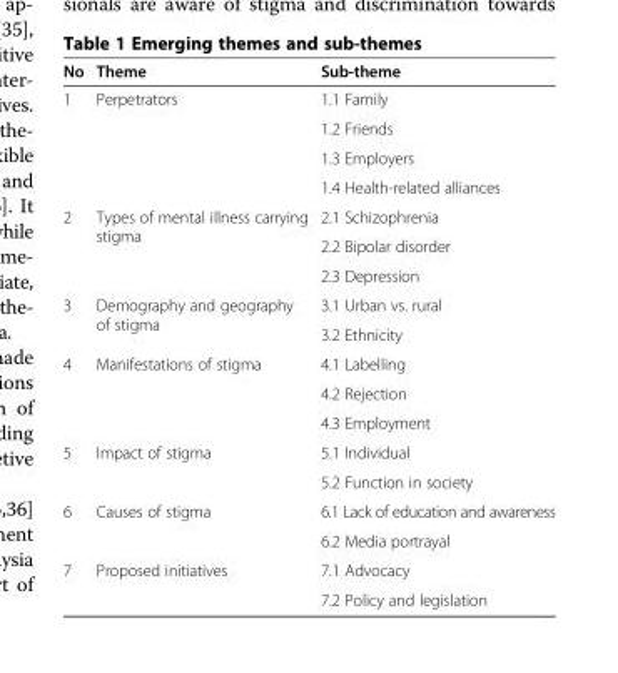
<table><thead><tr><td>No</td><td>Theme</td><td>Sub-theme</td></tr></thead><tbody><tr><td rowspan="4">1</td><td rowspan="4">Perpetrators</td><td>1.1 Family</td></tr><tr><td>1.2 Friends</td></tr><tr><td>1.3 Employers</td></tr><tr><td>1.4 Health-related alliances</td></tr><tr><td rowspan="3">2</td><td rowspan="3">Types of mental illness carrying stigma</td><td>2.1 Schizophrenia</td></tr><tr><td>2.2 Bipolar disorder</td></tr><tr><td>2.3 Depression</td></tr><tr><td rowspan="2">3</td><td rowspan="2">Demography and geography of stigma</td><td>3.1 Urban vs. rural</td></tr><tr><td>3.2 Ethnicity</td></tr><tr><td rowspan="3">4</td><td rowspan="3">Manifestations of stigma</td><td>4.1 Labelling</td></tr><tr><td>4.2 Rejection</td></tr><tr><td>4.3 Employment</td></tr><tr><td rowspan="2">5</td><td rowspan="2">Impact of stigma</td><td>5.1 Individual</td></tr><tr><td>5.2 Function in society</td></tr><tr><td rowspan="2">6</td><td rowspan="2">Causes of stigma</td><td>6.1 Lack of education and awareness</td></tr><tr><td>6.2 Media portrayal</td></tr><tr><td rowspan="2">7</td><td rowspan="2">Proposed initiatives</td><td>7.1 Advocacy</td></tr><tr><td>7.2 Policy and legislation</td></tr></tbody></table>